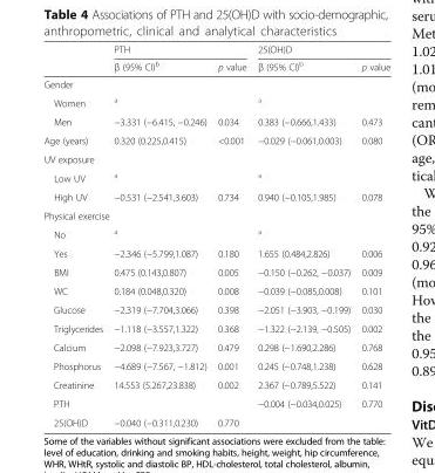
<table><thead><tr><td rowspan="2"></td><td colspan="2">PTH</td><td colspan="2">25(OH)D</td></tr><tr><td>β (95% CI)<sup>b</sup></td><td>p value</td><td>β (95% CI)<sup>b</sup></td><td>p value</td></tr></thead><tbody><tr><td colspan="5">Gender</td></tr><tr><td>Women</td><td><sup>a</sup></td><td></td><td><sup>a</sup></td><td></td></tr><tr><td>Men</td><td>−3.331 (−6.415, −0.246)</td><td>0.034</td><td>0.383 (−0.666,1.433)</td><td>0.473</td></tr><tr><td>Age (years)</td><td>0.320 (0.225,0.415)</td><td>&lt;0.001</td><td>−0.029 (−0.061,0.003)</td><td>0.080</td></tr><tr><td colspan="5">UV exposure</td></tr><tr><td>Low UV</td><td><sup>a</sup></td><td></td><td><sup>a</sup></td><td></td></tr><tr><td>High UV</td><td>−0.531 (−2.541,3.603)</td><td>0.734</td><td>0.940 (−0.105,1.985)</td><td>0.078</td></tr><tr><td colspan="5">Physical exercise</td></tr><tr><td>No</td><td><sup>a</sup></td><td></td><td><sup>a</sup></td><td></td></tr><tr><td>Yes</td><td>−2.346 (−5.799,1.087)</td><td>0.180</td><td>1.655 (0.484,2.826)</td><td>0.006</td></tr><tr><td>BMI</td><td>0.475 (0.143,0.807)</td><td>0.005</td><td>−0.150 (−0.262, −0.037)</td><td>0.009</td></tr><tr><td>WC</td><td>0.184 (0.048,0.320)</td><td>0.008</td><td>−0.039 (−0.085,0.008)</td><td>0.101</td></tr><tr><td>Glucose</td><td>−2.319 (−7.704,3.066)</td><td>0.398</td><td>−2.051 (−3.903, −0.199)</td><td>0.030</td></tr><tr><td>Triglycerides</td><td>−1.118 (−3.557,1.322)</td><td>0.368</td><td>−1.322 (−2.139, −0.505)</td><td>0.002</td></tr><tr><td>Calcium</td><td>−2.098 (−7.923,3.727)</td><td>0.479</td><td>0.298 (−1.690,2.286)</td><td>0.768</td></tr><tr><td>Phosphorus</td><td>−4.689 (−7.567, −1.812)</td><td>0.001</td><td>0.245 (−0.748,1.238)</td><td>0.628</td></tr><tr><td>Creatinine</td><td>14.553 (5.267,23.838)</td><td>0.002</td><td>2.367 (−0.789,5.522)</td><td>0.141</td></tr><tr><td>PTH</td><td></td><td></td><td>−0.004 (−0.034,0.025)</td><td>0.770</td></tr><tr><td>25(OH)D</td><td>−0.040 (−0.311,0.230)</td><td>0.770</td><td></td><td></td></tr></tbody></table>